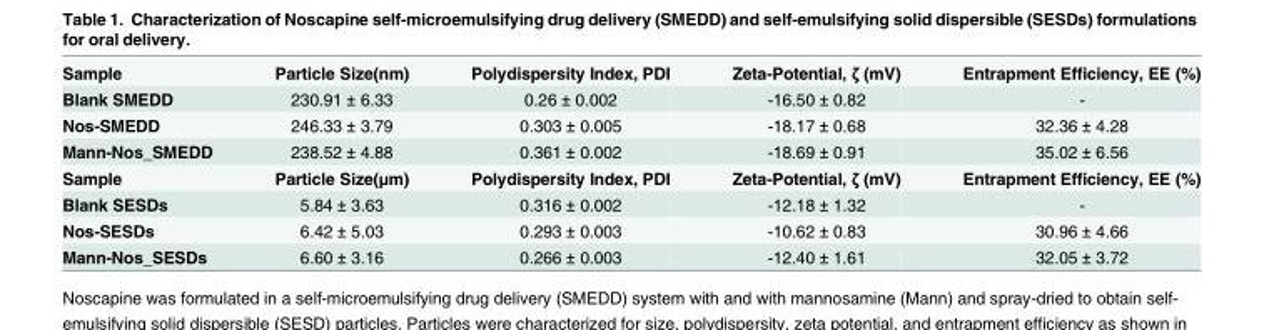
<table><tbody><tr><td>Sample</td><td>Particle Size(nm)</td><td>Polydispersity Index, PDI</td><td>Zeta-Potential, ζ (mV)</td><td>Entrapment Efficiency, EE (%)</td></tr><tr><td>Blank SMEDD</td><td>230.91 ± 6.33</td><td>0.26 ± 0.002</td><td>-16.50 ± 0.82</td><td>-</td></tr><tr><td>Nos-SMEDD</td><td>246.33 ± 3.79</td><td>0.303 ± 0.005</td><td>-18.17 ± 0.68</td><td>32.36 ± 4.28</td></tr><tr><td>Mann-Nos_SMEDD</td><td>238.52 ± 4.88</td><td>0.361 ± 0.002</td><td>-18.69 ± 0.91</td><td>35.02 ± 6.56</td></tr><tr><td>Sample</td><td>Particle Size(μm)</td><td>Polydispersity Index, PDI</td><td>Zeta-Potential, ζ (mV)</td><td>Entrapment Efficiency, EE (%)</td></tr><tr><td>Blank SESDs</td><td>5.84 ± 3.63</td><td>0.316 ± 0.002</td><td>-12.18 ± 1.32</td><td>-</td></tr><tr><td>Nos-SESDs</td><td>6.42 ± 5.03</td><td>0.293 ± 0.003</td><td>-10.62 ± 0.83</td><td>30.96 ± 4.66</td></tr><tr><td>Mann-Nos_SESDs</td><td>6.60 ± 3.16</td><td>0.266 ± 0.003</td><td>-12.40 ± 1.61</td><td>32.05 ± 3.72</td></tr></tbody></table>